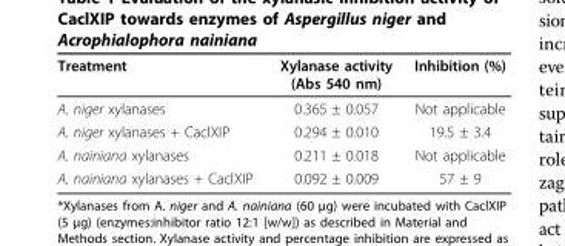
<table><thead><tr><td>Treatment</td><td>Xylanase activity (Abs 540 nm)</td><td>Inhibition (%)</td></tr></thead><tbody><tr><td>A. niger xylanases</td><td>0.365 ± 0.057</td><td>Not applicable</td></tr><tr><td>A. niger xylanases + CaclXIP</td><td>0.294 ± 0.010</td><td>19.5 ± 3.4</td></tr><tr><td>A. nainiana xylanases</td><td>0.211 ± 0.018</td><td>Not applicable</td></tr><tr><td>A. nainiana xylanases + CaclXIP</td><td>0.092 ± 0.009</td><td>57 ± 9</td></tr></tbody></table>